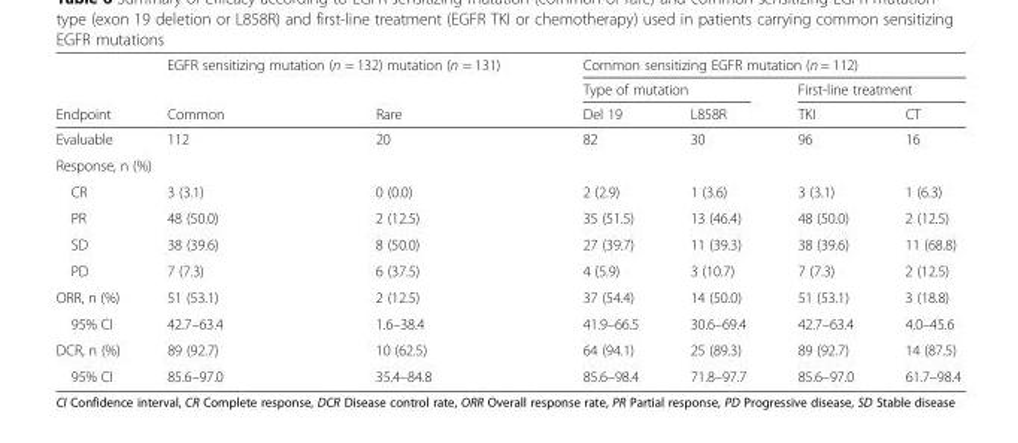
<table><thead><tr><td rowspan="3">Endpoint</td><td colspan="2">EGFR sensitizing mutation (n = 132) mutation (n = 131)</td><td colspan="4">Common sensitizing EGFR mutation (n = 112)</td></tr><tr><td rowspan="2">Common</td><td rowspan="2">Rare</td><td colspan="2">Type of mutation</td><td colspan="2">First-line treatment</td></tr><tr><td>Del 19</td><td>L858R</td><td>TKI</td><td>CT</td></tr></thead><tbody><tr><td>Evaluable</td><td>112</td><td>20</td><td>82</td><td>30</td><td>96</td><td>16</td></tr><tr><td colspan="7">Response, n (%)</td></tr><tr><td>CR</td><td>3 (3.1)</td><td>0 (0.0)</td><td>2 (2.9)</td><td>1 (3.6)</td><td>3 (3.1)</td><td>1 (6.3)</td></tr><tr><td>PR</td><td>48 (50.0)</td><td>2 (12.5)</td><td>35 (51.5)</td><td>13 (46.4)</td><td>48 (50.0)</td><td>2 (12.5)</td></tr><tr><td>SD</td><td>38 (39.6)</td><td>8 (50.0)</td><td>27 (39.7)</td><td>11 (39.3)</td><td>38 (39.6)</td><td>11 (68.8)</td></tr><tr><td>PD</td><td>7 (7.3)</td><td>6 (37.5)</td><td>4 (5.9)</td><td>3 (10.7)</td><td>7 (7.3)</td><td>2 (12.5)</td></tr><tr><td>ORR, n (%)</td><td>51 (53.1)</td><td>2 (12.5)</td><td>37 (54.4)</td><td>14 (50.0)</td><td>51 (53.1)</td><td>3 (18.8)</td></tr><tr><td>95% CI</td><td>42.7–63.4</td><td>1.6–38.4</td><td>41.9–66.5</td><td>30.6–69.4</td><td>42.7–63.4</td><td>4.0–45.6</td></tr><tr><td>DCR, n (%)</td><td>89 (92.7)</td><td>10 (62.5)</td><td>64 (94.1)</td><td>25 (89.3)</td><td>89 (92.7)</td><td>14 (87.5)</td></tr><tr><td>95% CI</td><td>85.6–97.0</td><td>35.4–84.8</td><td>85.6–98.4</td><td>71.8–97.7</td><td>85.6–97.0</td><td>61.7–98.4</td></tr></tbody></table>